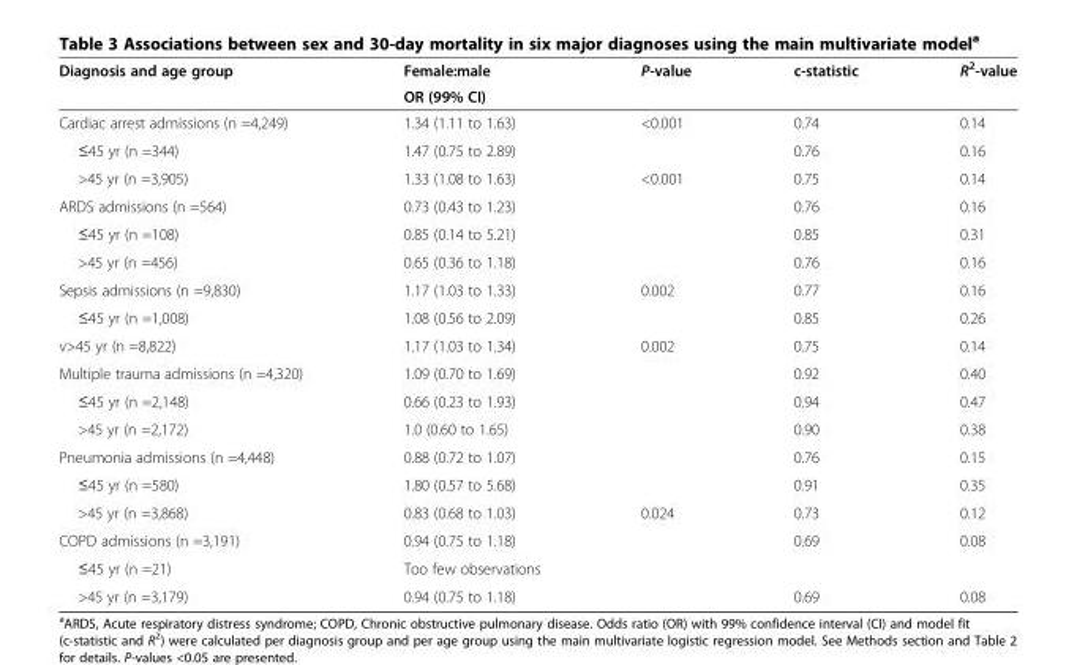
<table><thead><tr><td rowspan="2">Diagnosis and age group</td><td rowspan="2">Female:male OR (99% CI)</td><td rowspan="2">P-value</td><td rowspan="2">c-statistic</td><td rowspan="2">R<sup>2</sup>-value</td></tr><tr></tr></thead><tbody><tr><td>Cardiac arrest admissions (n =4,249)</td><td>1.34 (1.11 to 1.63)</td><td>&lt;0.001</td><td>0.74</td><td>0.14</td></tr><tr><td>≤45 yr (n =344)</td><td>1.47 (0.75 to 2.89)</td><td></td><td>0.76</td><td>0.16</td></tr><tr><td>&gt;45 yr (n =3,905)</td><td>1.33 (1.08 to 1.63)</td><td>&lt;0.001</td><td>0.75</td><td>0.14</td></tr><tr><td>ARDS admissions (n =564)</td><td>0.73 (0.43 to 1.23)</td><td></td><td>0.76</td><td>0.16</td></tr><tr><td>≤45 yr (n =108)</td><td>0.85 (0.14 to 5.21)</td><td></td><td>0.85</td><td>0.31</td></tr><tr><td>&gt;45 yr (n =456)</td><td>0.65 (0.36 to 1.18)</td><td></td><td>0.76</td><td>0.16</td></tr><tr><td>Sepsis admissions (n =9,830)</td><td>1.17 (1.03 to 1.33)</td><td>0.002</td><td>0.77</td><td>0.16</td></tr><tr><td>≤45 yr (n =1,008)</td><td>1.08 (0.56 to 2.09)</td><td></td><td>0.85</td><td>0.26</td></tr><tr><td>v&gt;45 yr (n =8,822)</td><td>1.17 (1.03 to 1.34)</td><td>0.002</td><td>0.75</td><td>0.14</td></tr><tr><td>Multiple trauma admissions (n =4,320)</td><td>1.09 (0.70 to 1.69)</td><td></td><td>0.92</td><td>0.40</td></tr><tr><td>≤45 yr (n =2,148)</td><td>0.66 (0.23 to 1.93)</td><td></td><td>0.94</td><td>0.47</td></tr><tr><td>&gt;45 yr (n =2,172)</td><td>1.0 (0.60 to 1.65)</td><td></td><td>0.90</td><td>0.38</td></tr><tr><td>Pneumonia admissions (n =4,448)</td><td>0.88 (0.72 to 1.07)</td><td></td><td>0.76</td><td>0.15</td></tr><tr><td>≤45 yr (n =580)</td><td>1.80 (0.57 to 5.68)</td><td></td><td>0.91</td><td>0.35</td></tr><tr><td>&gt;45 yr (n =3,868)</td><td>0.83 (0.68 to 1.03)</td><td>0.024</td><td>0.73</td><td>0.12</td></tr><tr><td>COPD admissions (n =3,191)</td><td>0.94 (0.75 to 1.18)</td><td></td><td>0.69</td><td>0.08</td></tr><tr><td>≤45 yr (n =21)</td><td>Too few observations</td><td></td><td></td><td></td></tr><tr><td>&gt;45 yr (n =3,179)</td><td>0.94 (0.75 to 1.18)</td><td></td><td>0.69</td><td>0.08</td></tr></tbody></table>